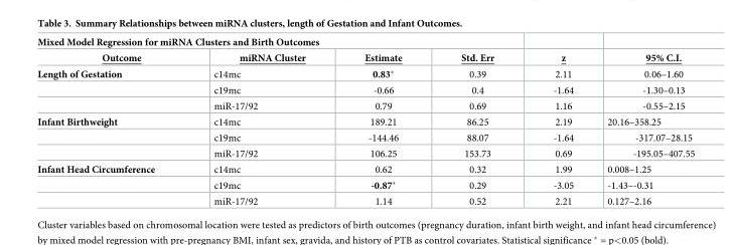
<table><thead><tr><td colspan="4">Mixed Model Regression for miRNA Clusters and Birth Outcomes</td><td rowspan="2">z</td><td rowspan="2">95% C.I.</td></tr><tr><td>Outcome</td><td>miRNA Cluster</td><td>Estimate</td><td>Std. Err</td></tr></thead><tbody><tr><td rowspan="3">Length of Gestation</td><td>c14mc</td><td>0.83*</td><td>0.39</td><td>2.11</td><td>0.06–1.60</td></tr><tr><td>c19mc</td><td>-0.66</td><td>0.4</td><td>-1.64</td><td>-1.30–0.13</td></tr><tr><td>miR-17/92</td><td>0.79</td><td>0.69</td><td>1.16</td><td>-0.55–2.15</td></tr><tr><td rowspan="3">Infant Birthweight</td><td>c14mc</td><td>189.21</td><td>86.25</td><td>2.19</td><td>20.16–358.25</td></tr><tr><td>c19mc</td><td>-144.46</td><td>88.07</td><td>-1.64</td><td>-317.07–28.15</td></tr><tr><td>miR-17/92</td><td>106.25</td><td>153.73</td><td>0.69</td><td>-195.05–407.55</td></tr><tr><td rowspan="3">Infant Head Circumference</td><td>c14mc</td><td>0.62</td><td>0.32</td><td>1.99</td><td>0.008–1.25</td></tr><tr><td>c19mc</td><td>-0.87*</td><td>0.29</td><td>-3.05</td><td>-1.43–-0.31</td></tr><tr><td>miR-17/92</td><td>1.14</td><td>0.52</td><td>2.21</td><td>0.127–2.16</td></tr></tbody></table>